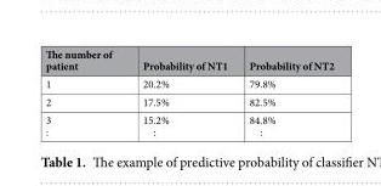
<table><thead><tr><td>The number of patient</td><td>Probability of NT1</td><td>Probability of NT2</td></tr></thead><tbody><tr><td>1</td><td>20.2%</td><td>79.8%</td></tr><tr><td>2</td><td>17.5%</td><td>82.5%</td></tr><tr><td>3 :</td><td>15.2% :</td><td>84.8% :</td></tr></tbody></table>